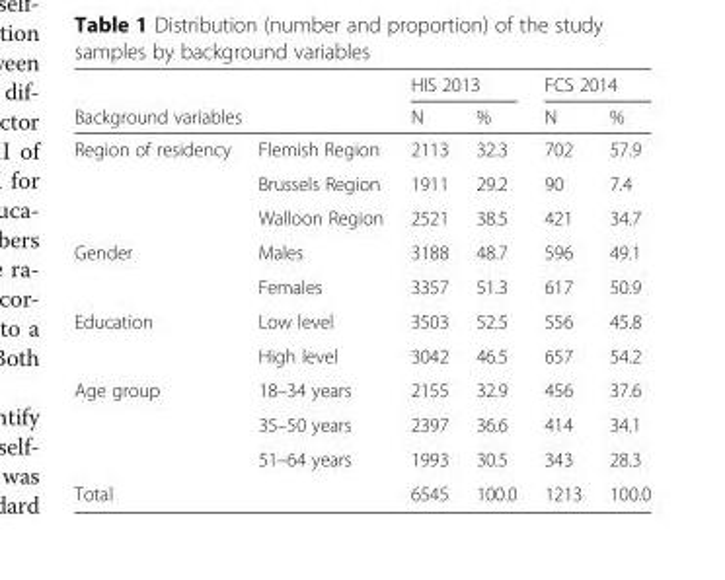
<table><thead><tr><td></td><td></td><td colspan="2">HIS 2013</td><td colspan="2">FCS 2014</td></tr><tr><td colspan="2">Background variables</td><td>N</td><td>%</td><td>N</td><td>%</td></tr></thead><tbody><tr><td rowspan="3">Region of residency</td><td>Flemish Region</td><td>2113</td><td>32.3</td><td>702</td><td>57.9</td></tr><tr><td>Brussels Region</td><td>1911</td><td>29.2</td><td>90</td><td>7.4</td></tr><tr><td>Walloon Region</td><td>2521</td><td>38.5</td><td>421</td><td>34.7</td></tr><tr><td rowspan="2">Gender</td><td>Males</td><td>3188</td><td>48.7</td><td>596</td><td>49.1</td></tr><tr><td>Females</td><td>3357</td><td>51.3</td><td>617</td><td>50.9</td></tr><tr><td rowspan="2">Education</td><td>Low level</td><td>3503</td><td>52.5</td><td>556</td><td>45.8</td></tr><tr><td>High level</td><td>3042</td><td>46.5</td><td>657</td><td>54.2</td></tr><tr><td rowspan="3">Age group</td><td>18–34 years</td><td>2155</td><td>32.9</td><td>456</td><td>37.6</td></tr><tr><td>35–50 years</td><td>2397</td><td>36.6</td><td>414</td><td>34.1</td></tr><tr><td>51–64 years</td><td>1993</td><td>30.5</td><td>343</td><td>28.3</td></tr><tr><td>Total</td><td></td><td>6545</td><td>100.0</td><td>1213</td><td>100.0</td></tr></tbody></table>